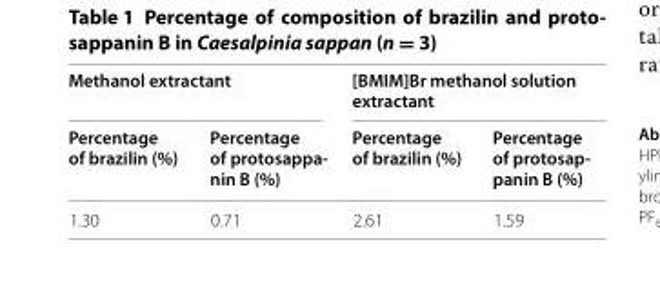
<table><thead><tr><td colspan="2">Methanol extractant</td><td colspan="2">[BMIM]Br methanol solution extractant</td></tr><tr><td>Percentage of brazilin (%)</td><td>Percentage of protosappa- nin B (%)</td><td>Percentage of brazilin (%)</td><td>Percentage of protosap- panin B (%)</td></tr></thead><tbody><tr><td>1.30</td><td>0.71</td><td>2.61</td><td>1.59</td></tr></tbody></table>